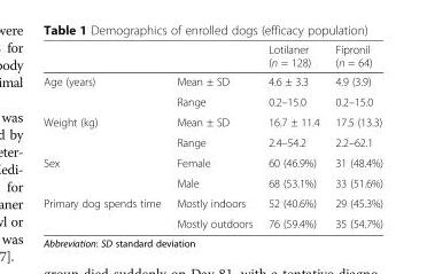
<table><thead><tr><td></td><td></td><td>Lotilaner (n = 128)</td><td>Fipronil (n = 64)</td></tr></thead><tbody><tr><td rowspan="2">Age (years)</td><td>Mean ± SD</td><td>4.6 ± 3.3</td><td>4.9 (3.9)</td></tr><tr><td>Range</td><td>0.2–15.0</td><td>0.2–15.0</td></tr><tr><td rowspan="2">Weight (kg)</td><td>Mean ± SD</td><td>16.7 ± 11.4</td><td>17.5 (13.3)</td></tr><tr><td>Range</td><td>2.4–54.2</td><td>2.2–62.1</td></tr><tr><td rowspan="2">Sex</td><td>Female</td><td>60 (46.9%)</td><td>31 (48.4%)</td></tr><tr><td>Male</td><td>68 (53.1%)</td><td>33 (51.6%)</td></tr><tr><td rowspan="2">Primary dog spends time</td><td>Mostly indoors</td><td>52 (40.6%)</td><td>29 (45.3%)</td></tr><tr><td>Mostly outdoors</td><td>76 (59.4%)</td><td>35 (54.7%)</td></tr></tbody></table>